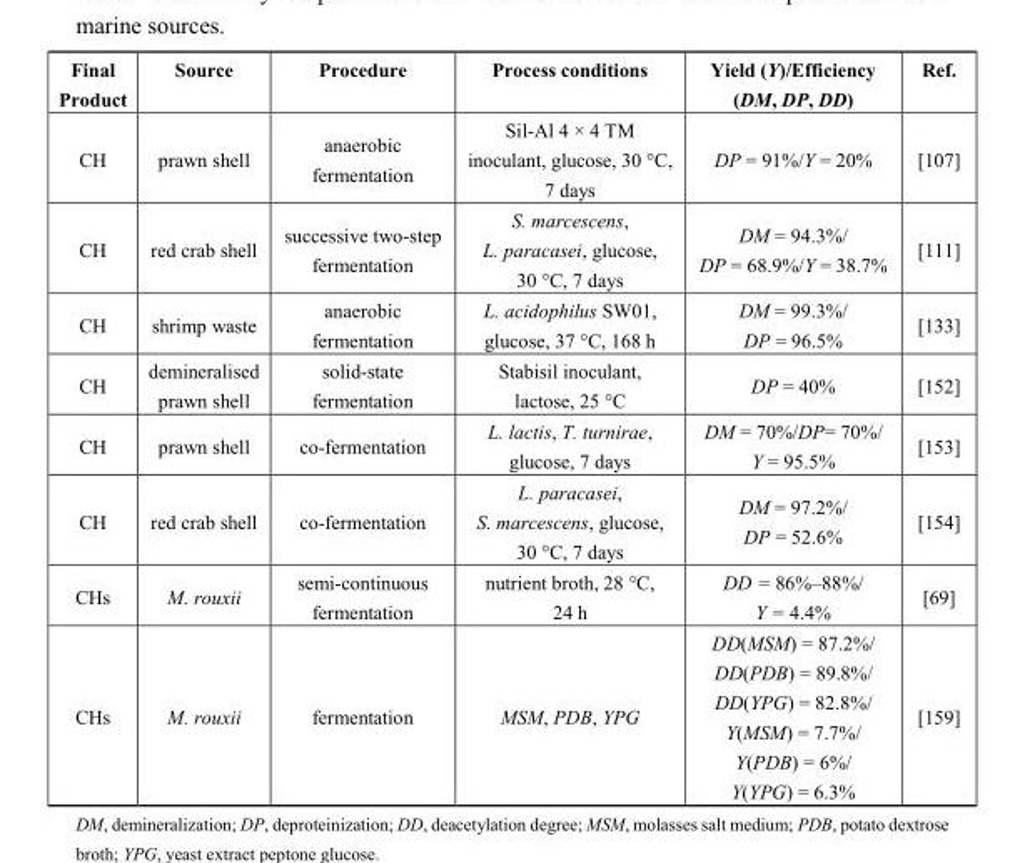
<table><thead><tr><td>Final Product</td><td>Source</td><td>Procedure</td><td>Process conditions</td><td>Yield (Y)/Efficiency (DM, DP, DD)</td><td>Ref.</td></tr></thead><tbody><tr><td>CH</td><td>prawn shell</td><td>anaerobic fermentation</td><td>Sil-Al 4 × 4 TM inoculant, glucose, 30 °C, 7 days</td><td>DP = 91%/Y = 20%</td><td>[107]</td></tr><tr><td>CH</td><td>red crab shell</td><td>successive two-step fermentation</td><td>S. marcescens, L. paracasei, glucose, 30 °C, 7 days</td><td>DM = 94.3%/ DP = 68.9%/Y = 38.7%</td><td>[111]</td></tr><tr><td>CH</td><td>shrimp waste</td><td>anaerobic fermentation</td><td>L. acidophilus SW01, glucose, 37 °C, 168 h</td><td>DM = 99.3%/ DP = 96.5%</td><td>[133]</td></tr><tr><td>CH</td><td>demineralised prawn shell</td><td>solid-state fermentation</td><td>Stabisil inoculant, lactose, 25 °C</td><td>DP = 40%</td><td>[152]</td></tr><tr><td>CH</td><td>prawn shell</td><td>co-fermentation</td><td>L. lactis, T. turnirae, glucose, 7 days</td><td>DM = 70%/DP= 70%/ Y = 95.5%</td><td>[153]</td></tr><tr><td>CH</td><td>red crab shell</td><td>co-fermentation</td><td>L. paracasei, S. marcescens, glucose, 30 °C, 7 days</td><td>DM = 97.2%/ DP = 52.6%</td><td>[154]</td></tr><tr><td>CHs</td><td>M. rouxii</td><td>semi-continuous fermentation</td><td>nutrient broth, 28 °C, 24 h</td><td>DD = 86%–88%/ Y = 4.4%</td><td>[69]</td></tr><tr><td>CHs</td><td>M. rouxii</td><td>fermentation</td><td>MSM, PDB, YPG</td><td>DD(MSM) = 87.2%/ DD(PDB) = 89.8%/ DD(YPG) = 82.8%/ Y(MSM) = 7.7%/ Y(PDB) = 6%/ Y(YPG) = 6.3%</td><td>[159]</td></tr></tbody></table>